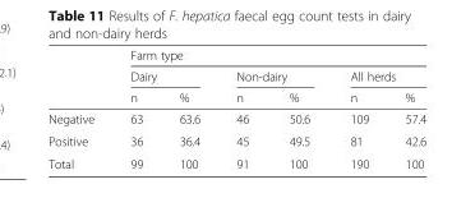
<table><thead><tr><td rowspan="3"></td><td colspan="6">Farm type</td></tr><tr><td colspan="2">Dairy</td><td colspan="2">Non-dairy</td><td colspan="2">All herds</td></tr><tr><td>n</td><td>%</td><td>n</td><td>%</td><td>n</td><td>%</td></tr></thead><tbody><tr><td>Negative</td><td>63</td><td>63.6</td><td>46</td><td>50.6</td><td>109</td><td>57.4</td></tr><tr><td>Positive</td><td>36</td><td>36.4</td><td>45</td><td>49.5</td><td>81</td><td>42.6</td></tr><tr><td>Total</td><td>99</td><td>100</td><td>91</td><td>100</td><td>190</td><td>100</td></tr></tbody></table>